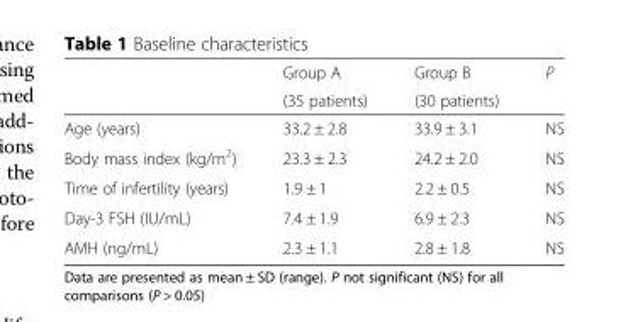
<table><thead><tr><td rowspan="2"></td><td rowspan="2">Group A (35 patients)</td><td rowspan="2">Group B (30 patients)</td><td rowspan="2">P</td></tr><tr></tr></thead><tbody><tr><td>Age (years)</td><td>33.2 ± 2.8</td><td>33.9 ± 3.1</td><td>NS</td></tr><tr><td>Body mass index (kg/m<sup>2</sup>)</td><td>23.3 ± 2.3</td><td>24.2 ± 2.0</td><td>NS</td></tr><tr><td>Time of infertility (years)</td><td>1.9 ± 1</td><td>2.2 ± 0.5</td><td>NS</td></tr><tr><td>Day-3 FSH (IU/mL)</td><td>7.4 ± 1.9</td><td>6.9 ± 2.3</td><td>NS</td></tr><tr><td>AMH (ng/mL)</td><td>2.3 ± 1.1</td><td>2.8 ± 1.8</td><td>NS</td></tr></tbody></table>